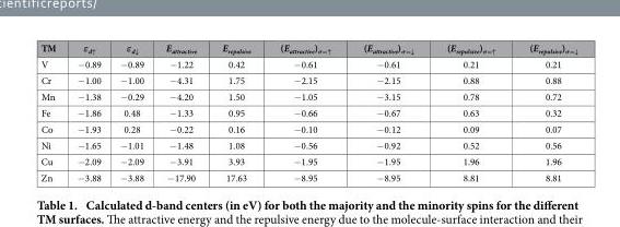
<table><thead><tr><td>TM</td><td>ε<sub>d↑</sub></td><td>ε<sub>d↓</sub></td><td>E<sub>attractive</sub></td><td>E<sub>repulsive</sub></td><td>(E<sub>attractive</sub>)<sub>σ=↑</sub></td><td>(E<sub>attractive</sub>)<sub>σ=↓</sub></td><td>(E<sub>repulsive</sub>)<sub>σ=↑</sub></td><td>(E<sub>repulsive</sub>)<sub>σ=↓</sub></td></tr></thead><tbody><tr><td>V</td><td>− 0.89</td><td>− 0.89</td><td>− 1.22</td><td>0.42</td><td>− 0.61</td><td>− 0.61</td><td>0.21</td><td>0.21</td></tr><tr><td>Cr</td><td>− 1.00</td><td>− 1.00</td><td>− 4.31</td><td>1.75</td><td>− 2.15</td><td>− 2.15</td><td>0.88</td><td>0.88</td></tr><tr><td>Mn</td><td>− 1.38</td><td>− 0.29</td><td>− 4.20</td><td>1.50</td><td>− 1.05</td><td>− 3.15</td><td>0.78</td><td>0.72</td></tr><tr><td>Fe</td><td>− 1.86</td><td>0.48</td><td>− 1.33</td><td>0.95</td><td>− 0.66</td><td>− 0.67</td><td>0.63</td><td>0.32</td></tr><tr><td>Co</td><td>− 1.93</td><td>0.28</td><td>− 0.22</td><td>0.16</td><td>− 0.10</td><td>− 0.12</td><td>0.09</td><td>0.07</td></tr><tr><td>Ni</td><td>− 1.65</td><td>− 1.01</td><td>− 1.48</td><td>1.08</td><td>− 0.56</td><td>− 0.92</td><td>0.52</td><td>0.56</td></tr><tr><td>Cu</td><td>− 2.09</td><td>− 2.09</td><td>− 3.91</td><td>3.93</td><td>− 1.95</td><td>− 1.95</td><td>1.96</td><td>1.96</td></tr><tr><td>Zn</td><td>− 3.88</td><td>− 3.88</td><td>− 17.90</td><td>17.63</td><td>− 8.95</td><td>− 8.95</td><td>8.81</td><td>8.81</td></tr></tbody></table>